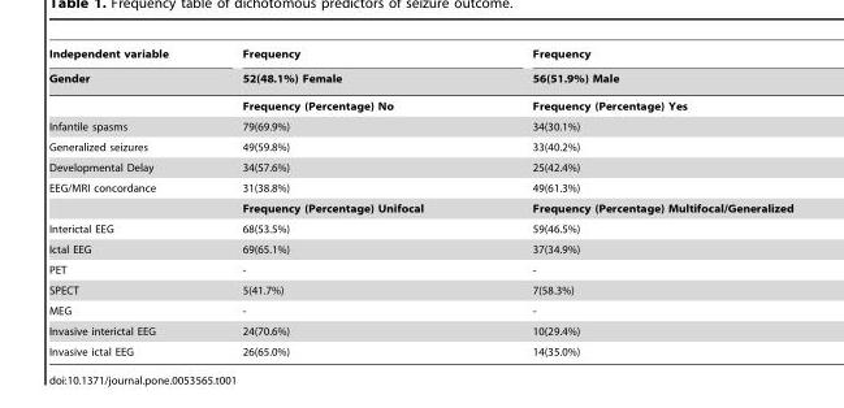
<table><thead><tr><td rowspan="2">Independent variable Gender</td><td rowspan="2">Frequency 52(48.1%) Female</td><td rowspan="2">Frequency 56(51.9%) Male</td></tr><tr></tr></thead><tbody><tr><td></td><td>Frequency (Percentage) No</td><td>Frequency (Percentage) Yes</td></tr><tr><td>Infantile spasms</td><td>79(69.9%)</td><td>34(30.1%)</td></tr><tr><td>Generalized seizures</td><td>49(59.8%)</td><td>33(40.2%)</td></tr><tr><td>Developmental Delay</td><td>34(57.6%)</td><td>25(42.4%)</td></tr><tr><td rowspan="2">EEG/MRI concordance</td><td>31(38.8%)</td><td>49(61.3%)</td></tr><tr><td>Frequency (Percentage) Unifocal</td><td>Frequency (Percentage) Multifocal/Generalized</td></tr><tr><td>Interictal EEG</td><td>68(53.5%)</td><td>59(46.5%)</td></tr><tr><td>Ictal EEG</td><td>69(65.1%)</td><td>37(34.9%)</td></tr><tr><td>PET</td><td>-</td><td>-</td></tr><tr><td>SPECT</td><td>5(41.7%)</td><td>7(58.3%)</td></tr><tr><td>MEG</td><td>-</td><td>-</td></tr><tr><td>Invasive interictal EEG</td><td>24(70.6%)</td><td>10(29.4%)</td></tr><tr><td>Invasive ictal EEG</td><td>26(65.0%)</td><td>14(35.0%)</td></tr></tbody></table>